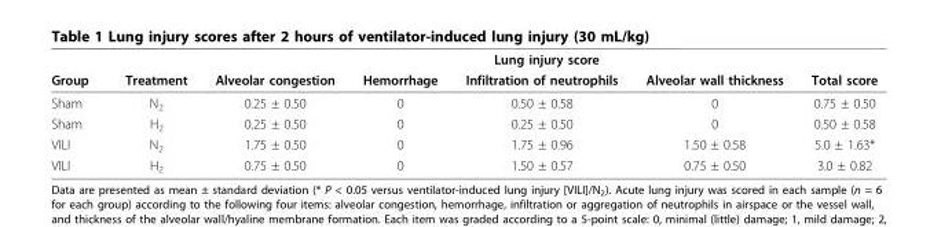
<table><thead><tr><td rowspan="2">Group</td><td rowspan="2">Treatment</td><td colspan="5">Lung injury score</td></tr><tr><td>Alveolar congestion</td><td>Hemorrhage</td><td>Infiltration of neutrophils</td><td>Alveolar wall thickness</td><td>Total score</td></tr></thead><tbody><tr><td>Sham</td><td>N<sub>2</sub></td><td>0.25 ± 0.50</td><td>0</td><td>0.50 ± 0.58</td><td>0</td><td>0.75 ± 0.50</td></tr><tr><td>Sham</td><td>H<sub>2</sub></td><td>0.25 ± 0.50</td><td>0</td><td>0.25 ± 0.50</td><td>0</td><td>0.50 ± 0.58</td></tr><tr><td>VILI</td><td>N<sub>2</sub></td><td>1.75 ± 0.50</td><td>0</td><td>1.75 ± 0.96</td><td>1.50 ± 0.58</td><td>5.0 ± 1.63*</td></tr><tr><td>VILI</td><td>H<sub>2</sub></td><td>0.75 ± 0.50</td><td>0</td><td>1.50 ± 0.57</td><td>0.75 ± 0.50</td><td>3.0 ± 0.82</td></tr></tbody></table>